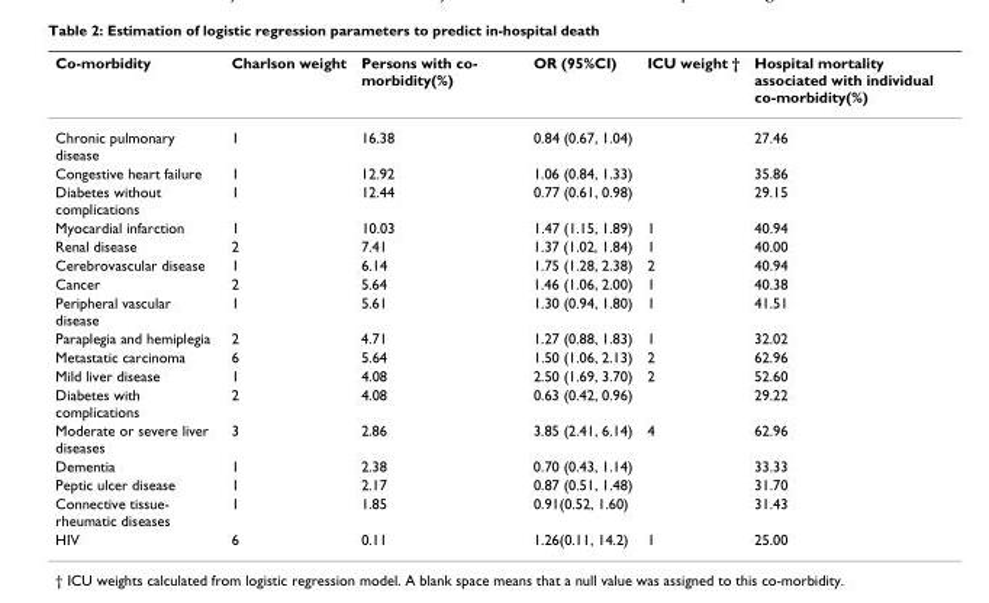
<table><thead><tr><td>Co-morbidity</td><td>Charlson weight</td><td>Persons with co- morbidity(%)</td><td>OR (95%CI)</td><td>ICU weight †</td><td>Hospital mortality associated with individual co-morbidity(%)</td></tr></thead><tbody><tr><td>Chronic pulmonary disease</td><td>1</td><td>16.38</td><td>0.84 (0.67, 1.04)</td><td></td><td>27.46</td></tr><tr><td>Congestive heart failure</td><td>1</td><td>12.92</td><td>1.06 (0.84, 1.33)</td><td></td><td>35.86</td></tr><tr><td>Diabetes without complications</td><td>1</td><td>12.44</td><td>0.77 (0.61, 0.98)</td><td></td><td>29.15</td></tr><tr><td>Myocardial infarction</td><td>1</td><td>10.03</td><td>1.47 (1.15, 1.89)</td><td>1</td><td>40.94</td></tr><tr><td>Renal disease</td><td>2</td><td>7.41</td><td>1.37 (1.02, 1.84)</td><td>1</td><td>40.00</td></tr><tr><td>Cerebrovascular disease</td><td>1</td><td>6.14</td><td>1.75 (1.28, 2.38)</td><td>2</td><td>40.94</td></tr><tr><td>Cancer</td><td>2</td><td>5.64</td><td>1.46 (1.06, 2.00)</td><td>1</td><td>40.38</td></tr><tr><td>Peripheral vascular disease</td><td>1</td><td>5.61</td><td>1.30 (0.94, 1.80)</td><td>1</td><td>41.51</td></tr><tr><td>Paraplegia and hemiplegia</td><td>2</td><td>4.71</td><td>1.27 (0.88, 1.83)</td><td>1</td><td>32.02</td></tr><tr><td>Metastatic carcinoma</td><td>6</td><td>5.64</td><td>1.50 (1.06, 2.13)</td><td>2</td><td>62.96</td></tr><tr><td>Mild liver disease</td><td>1</td><td>4.08</td><td>2.50 (1.69, 3.70)</td><td>2</td><td>52.60</td></tr><tr><td>Diabetes with complications</td><td>2</td><td>4.08</td><td>0.63 (0.42, 0.96)</td><td></td><td>29.22</td></tr><tr><td>Moderate or severe liver diseases</td><td>3</td><td>2.86</td><td>3.85 (2.41, 6.14)</td><td>4</td><td>62.96</td></tr><tr><td>Dementia</td><td>1</td><td>2.38</td><td>0.70 (0.43, 1.14)</td><td></td><td>33.33</td></tr><tr><td>Peptic ulcer disease</td><td>1</td><td>2.17</td><td>0.87 (0.51, 1.48)</td><td></td><td>31.70</td></tr><tr><td>Connective tissue- rheumatic diseases</td><td>1</td><td>1.85</td><td>0.91(0.52, 1.60)</td><td></td><td>31.43</td></tr><tr><td>HIV</td><td>6</td><td>0.11</td><td>1.26(0.11, 14.2)</td><td>1</td><td>25.00</td></tr></tbody></table>